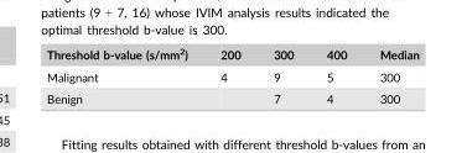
<table><thead><tr><td>Threshold b-value (s/mm<sup>2</sup>)</td><td>200</td><td>300</td><td>400</td><td>Median</td></tr></thead><tbody><tr><td>Malignant</td><td>4</td><td>9</td><td>5</td><td>300</td></tr><tr><td>Benign</td><td></td><td>7</td><td>4</td><td>300</td></tr></tbody></table>